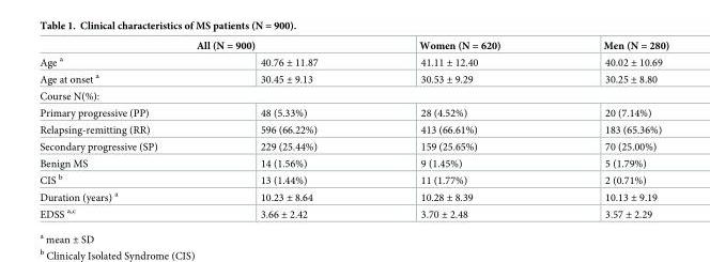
<table><thead><tr><td colspan="2">All (N = 900)</td><td rowspan="2">Women (N = 620) 41.11 ± 12.40</td><td rowspan="2">Men (N = 280) 40.02 ± 10.69</td></tr><tr><td>Age <sup>a</sup></td><td>40.76 ± 11.87</td></tr></thead><tbody><tr><td>Age at onset <sup>a</sup></td><td>30.45 ± 9.13</td><td>30.53 ± 9.29</td><td>30.25 ± 8.80</td></tr><tr><td colspan="4">Course N(%):</td></tr><tr><td>Primary progressive (PP)</td><td>48 (5.33%)</td><td>28 (4.52%)</td><td>20 (7.14%)</td></tr><tr><td>Relapsing-remitting (RR)</td><td>596 (66.22%)</td><td>413 (66.61%)</td><td>183 (65.36%)</td></tr><tr><td>Secondary progressive (SP)</td><td>229 (25.44%)</td><td>159 (25.65%)</td><td>70 (25.00%)</td></tr><tr><td>Benign MS</td><td>14 (1.56%)</td><td>9 (1.45%)</td><td>5 (1.79%)</td></tr><tr><td>CIS <sup>b</sup></td><td>13 (1.44%)</td><td>11 (1.77%)</td><td>2 (0.71%)</td></tr><tr><td>Duration (years) <sup>a</sup></td><td>10.23 ± 8.64</td><td>10.28 ± 8.39</td><td>10.13 ± 9.19</td></tr><tr><td>EDSS <sup>a,c</sup></td><td>3.66 ± 2.42</td><td>3.70 ± 2.48</td><td>3.57 ± 2.29</td></tr></tbody></table>